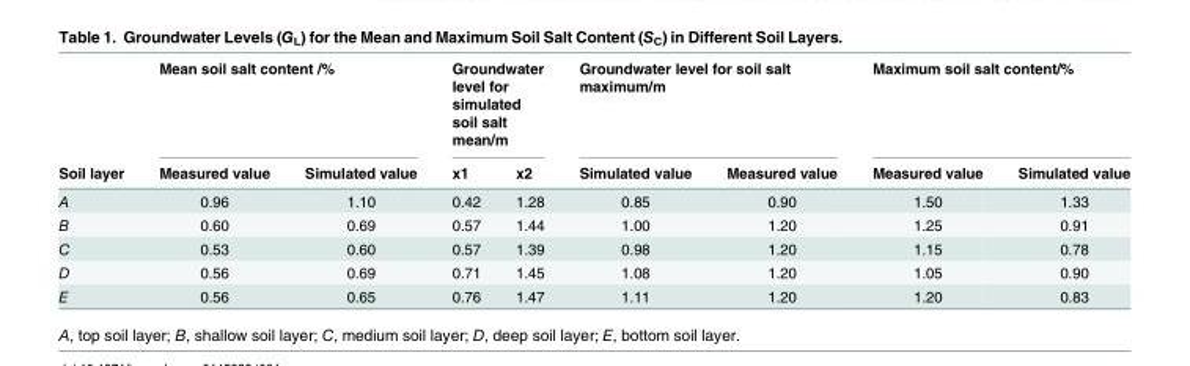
<table><thead><tr><td rowspan="2">Soil layer</td><td colspan="2">Mean soil salt content /%</td><td colspan="2">Groundwater level for simulated soil salt mean/m</td><td colspan="2">Groundwater level for soil salt maximum/m</td><td colspan="2">Maximum soil salt content/%</td></tr><tr><td>Measured value</td><td>Simulated value</td><td>x1</td><td>x2</td><td>Simulated value</td><td>Measured value</td><td>Measured value</td><td>Simulated value</td></tr></thead><tbody><tr><td>A</td><td>0.96</td><td>1.10</td><td>0.42</td><td>1.28</td><td>0.85</td><td>0.90</td><td>1.50</td><td>1.33</td></tr><tr><td>B</td><td>0.60</td><td>0.69</td><td>0.57</td><td>1.44</td><td>1.00</td><td>1.20</td><td>1.25</td><td>0.91</td></tr><tr><td>C</td><td>0.53</td><td>0.60</td><td>0.57</td><td>1.39</td><td>0.98</td><td>1.20</td><td>1.15</td><td>0.78</td></tr><tr><td>D</td><td>0.56</td><td>0.69</td><td>0.71</td><td>1.45</td><td>1.08</td><td>1.20</td><td>1.05</td><td>0.90</td></tr><tr><td>E</td><td>0.56</td><td>0.65</td><td>0.76</td><td>1.47</td><td>1.11</td><td>1.20</td><td>1.20</td><td>0.83</td></tr></tbody></table>